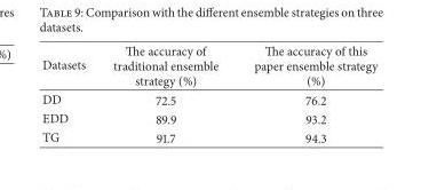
<table><thead><tr><td>Datasets</td><td>The accuracy of traditional ensemble strategy (%)</td><td>The accuracy of this paper ensemble strategy (%)</td></tr></thead><tbody><tr><td>DD</td><td>72.5</td><td>76.2</td></tr><tr><td>EDD</td><td>89.9</td><td>93.2</td></tr><tr><td>TG</td><td>91.7</td><td>94.3</td></tr></tbody></table>